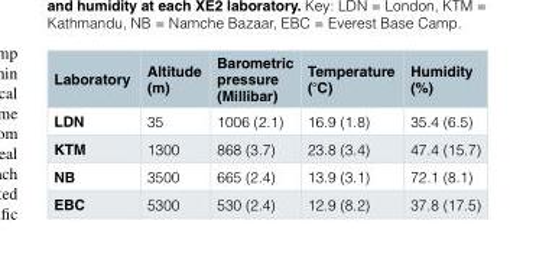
<table><thead><tr><td>Laboratory</td><td>Altitude (m)</td><td>Barometric pressure (Millibar)</td><td>Temperature (°C)</td><td>Humidity (%)</td></tr></thead><tbody><tr><td>LDN</td><td>35</td><td>1006 (2.1)</td><td>16.9 (1.8)</td><td>35.4 (6.5)</td></tr><tr><td>KTM</td><td>1300</td><td>868 (3.7)</td><td>23.8 (3.4)</td><td>47.4 (15.7)</td></tr><tr><td>NB</td><td>3500</td><td>665 (2.4)</td><td>13.9 (3.1)</td><td>72.1 (8.1)</td></tr><tr><td>EBC</td><td>5300</td><td>530 (2.4)</td><td>12.9 (8.2)</td><td>37.8 (17.5)</td></tr></tbody></table>